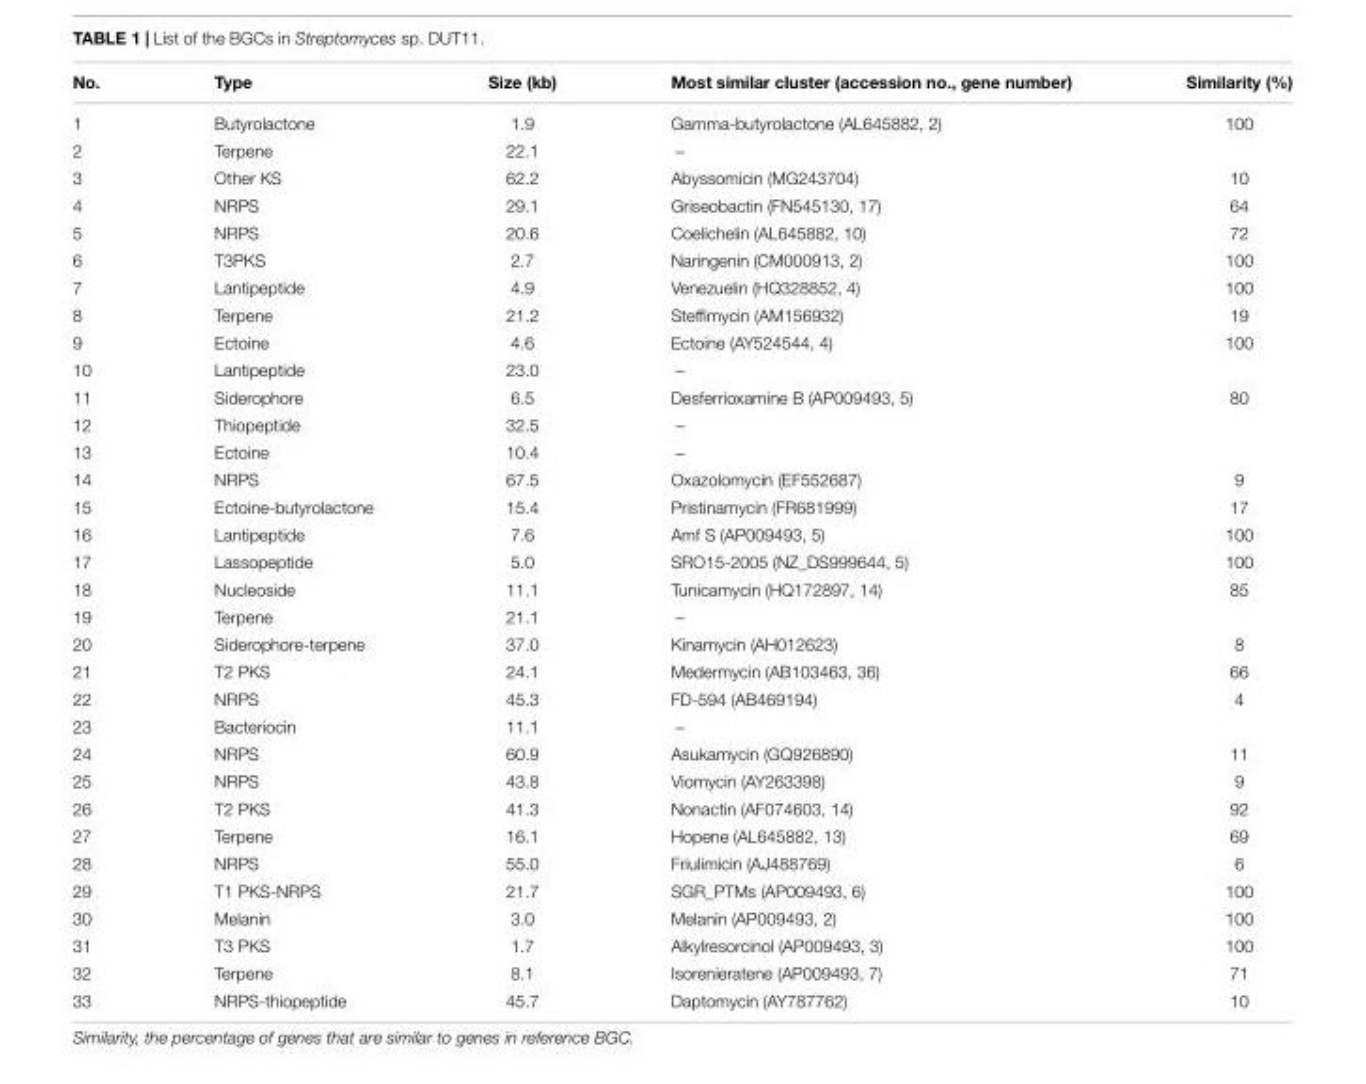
<table><thead><tr><td>No.</td><td>Type</td><td>Size (kb)</td><td>Most similar cluster (accession no., gene number)</td><td>Similarity (%)</td></tr></thead><tbody><tr><td>1</td><td>Butyrolactone</td><td>1.9</td><td>Gamma-butyrolactone (AL645882, 2)</td><td>100</td></tr><tr><td>2</td><td>Terpene</td><td>22.1</td><td>–</td><td></td></tr><tr><td>3</td><td>Other KS</td><td>62.2</td><td>Abyssomicin (MG243704)</td><td>10</td></tr><tr><td>4</td><td>NRPS</td><td>29.1</td><td>Griseobactin (FN545130, 17)</td><td>64</td></tr><tr><td>5</td><td>NRPS</td><td>20.6</td><td>Coelichelin (AL645882, 10)</td><td>72</td></tr><tr><td>6</td><td>T3PKS</td><td>2.7</td><td>Naringenin (CM000913, 2)</td><td>100</td></tr><tr><td>7</td><td>Lantipeptide</td><td>4.9</td><td>Venezuelin (HQ328852, 4)</td><td>100</td></tr><tr><td>8</td><td>Terpene</td><td>21.2</td><td>Steffimycin (AM156932)</td><td>19</td></tr><tr><td>9</td><td>Ectoine</td><td>4.6</td><td>Ectoine (AY524544, 4)</td><td>100</td></tr><tr><td>10</td><td>Lantipeptide</td><td>23.0</td><td>–</td><td></td></tr><tr><td>11</td><td>Siderophore</td><td>6.5</td><td>Desferrioxamine B (AP009493, 5)</td><td>80</td></tr><tr><td>12</td><td>Thiopeptide</td><td>32.5</td><td>–</td><td></td></tr><tr><td>13</td><td>Ectoine</td><td>10.4</td><td>–</td><td></td></tr><tr><td>14</td><td>NRPS</td><td>67.5</td><td>Oxazolomycin (EF552687)</td><td>9</td></tr><tr><td>15</td><td>Ectoine-butyrolactone</td><td>15.4</td><td>Pristinamycin (FR681999)</td><td>17</td></tr><tr><td>16</td><td>Lantipeptide</td><td>7.6</td><td>Amf S (AP009493, 5)</td><td>100</td></tr><tr><td>17</td><td>Lassopeptide</td><td>5.0</td><td>SRO15-2005 (NZ_DS999644, 5)</td><td>100</td></tr><tr><td>18</td><td>Nucleoside</td><td>11.1</td><td>Tunicamycin (HQ172897, 14)</td><td>85</td></tr><tr><td>19</td><td>Terpene</td><td>21.1</td><td>–</td><td></td></tr><tr><td>20</td><td>Siderophore-terpene</td><td>37.0</td><td>Kinamycin (AH012623)</td><td>8</td></tr><tr><td>21</td><td>T2 PKS</td><td>24.1</td><td>Medermycin (AB103463, 36)</td><td>66</td></tr><tr><td>22</td><td>NRPS</td><td>45.3</td><td>FD-594 (AB469194)</td><td>4</td></tr><tr><td>23</td><td>Bacteriocin</td><td>11.1</td><td>–</td><td></td></tr><tr><td>24</td><td>NRPS</td><td>60.9</td><td>Asukamycin (GQ926890)</td><td>11</td></tr><tr><td>25</td><td>NRPS</td><td>43.8</td><td>Viomycin (AY263398)</td><td>9</td></tr><tr><td>26</td><td>T2 PKS</td><td>41.3</td><td>Nonactin (AF074603, 14)</td><td>92</td></tr><tr><td>27</td><td>Terpene</td><td>16.1</td><td>Hopene (AL645882, 13)</td><td>69</td></tr><tr><td>28</td><td>NRPS</td><td>55.0</td><td>Friulimicin (AJ488769)</td><td>6</td></tr><tr><td>29</td><td>T1 PKS-NRPS</td><td>21.7</td><td>SGR_PTMs (AP009493, 6)</td><td>100</td></tr><tr><td>30</td><td>Melanin</td><td>3.0</td><td>Melanin (AP009493, 2)</td><td>100</td></tr><tr><td>31</td><td>T3 PKS</td><td>1.7</td><td>Alkylresorcinol (AP009493, 3)</td><td>100</td></tr><tr><td>32</td><td>Terpene</td><td>8.1</td><td>Isorenieratene (AP009493, 7)</td><td>71</td></tr><tr><td>33</td><td>NRPS-thiopeptide</td><td>45.7</td><td>Daptomycin (AY787762)</td><td>10</td></tr></tbody></table>